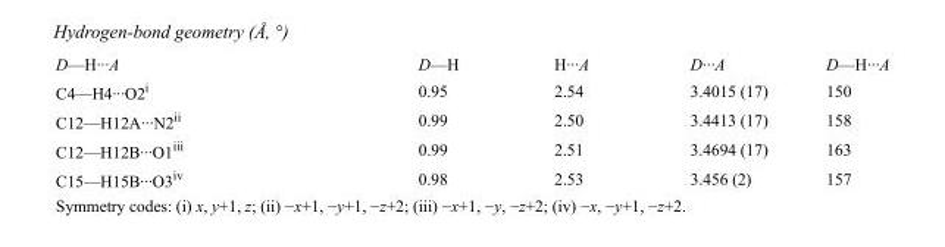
<table><tbody><tr><td>D—H···A</td><td>D—H</td><td>H···A</td><td>D···A</td><td>D—H···A</td></tr><tr><td>C4—H4···O2<sup>i</sup></td><td>0.95</td><td>2.54</td><td>3.4015 (17)</td><td>150</td></tr><tr><td>C12—H12A···N2<sup>ii</sup></td><td>0.99</td><td>2.50</td><td>3.4413 (17)</td><td>158</td></tr><tr><td>C12—H12B···O1<sup>iii</sup></td><td>0.99</td><td>2.51</td><td>3.4694 (17)</td><td>163</td></tr><tr><td>C15—H15B···O3<sup>iv</sup></td><td>0.98</td><td>2.53</td><td>3.456 (2)</td><td>157</td></tr></tbody></table>